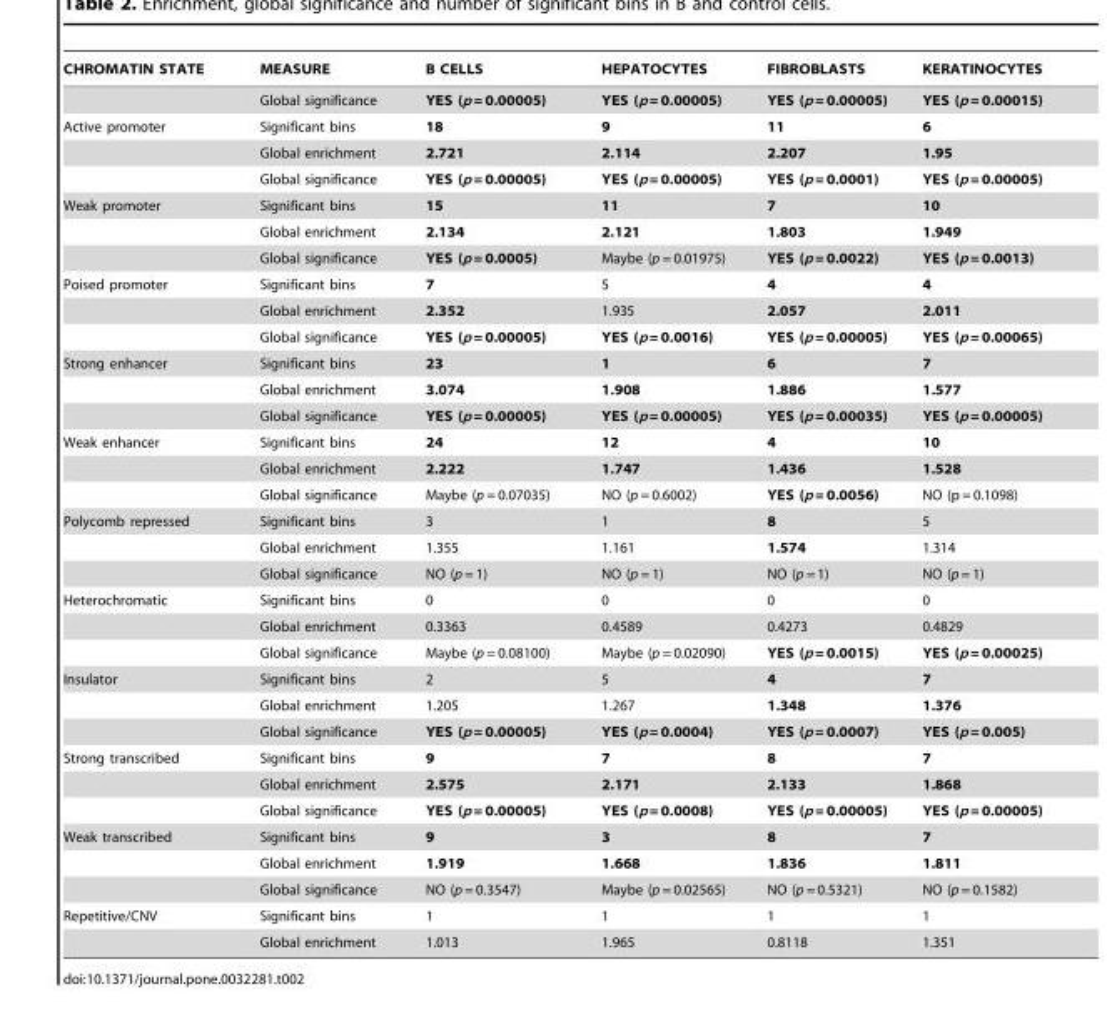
<table><thead><tr><td>CHROMATIN STATE</td><td>MEASURE</td><td>B CELLS</td><td>HEPATOCYTES</td><td>FIBROBLASTS</td><td>KERATINOCYTES</td></tr></thead><tbody><tr><td></td><td>Global significance</td><td>YES (p = 0.00005)</td><td>YES (p = 0.00005)</td><td>YES (p = 0.00005)</td><td>YES (p = 0.00015)</td></tr><tr><td rowspan="3">Active promoter</td><td>Significant bins</td><td>18</td><td>9</td><td>11</td><td>6</td></tr><tr><td>Global enrichment</td><td>2.721</td><td>2.114</td><td>2.207</td><td>1.95</td></tr><tr><td>Global significance</td><td>YES (p = 0.00005)</td><td>YES (p = 0.00005)</td><td>YES (p = 0.0001)</td><td>YES (p = 0.00005)</td></tr><tr><td rowspan="3">Weak promoter</td><td>Significant bins</td><td>15</td><td>11</td><td>7</td><td>10</td></tr><tr><td>Global enrichment</td><td>2.134</td><td>2.121</td><td>1.803</td><td>1.949</td></tr><tr><td>Global significance</td><td>YES (p = 0.0005)</td><td>Maybe (p = 0.01975)</td><td>YES (p = 0.0022)</td><td>YES (p = 0.0013)</td></tr><tr><td rowspan="3">Poised promoter</td><td>Significant bins</td><td>7</td><td>5</td><td>4</td><td>4</td></tr><tr><td>Global enrichment</td><td>2.352</td><td>1.935</td><td>2.057</td><td>2.011</td></tr><tr><td>Global significance</td><td>YES (p = 0.00005)</td><td>YES (p = 0.0016)</td><td>YES (p = 0.00005)</td><td>YES (p = 0.00065)</td></tr><tr><td rowspan="3">Strong enhancer</td><td>Significant bins</td><td>23</td><td>1</td><td>6</td><td>7</td></tr><tr><td>Global enrichment</td><td>3.074</td><td>1.908</td><td>1.886</td><td>1.577</td></tr><tr><td>Global significance</td><td>YES (p = 0.00005)</td><td>YES (p = 0.00005)</td><td>YES (p = 0.00035)</td><td>YES (p = 0.00005)</td></tr><tr><td rowspan="3">Weak enhancer</td><td>Significant bins</td><td>24</td><td>12</td><td>4</td><td>10</td></tr><tr><td>Global enrichment</td><td>2.222</td><td>1.747</td><td>1.436</td><td>1.528</td></tr><tr><td>Global significance</td><td>Maybe (p = 0.07035)</td><td>NO (p = 0.6002)</td><td>YES (p = 0.0056)</td><td>NO (p = 0.1098)</td></tr><tr><td rowspan="3">Polycomb repressed</td><td>Significant bins</td><td>3</td><td>1</td><td>8</td><td>5</td></tr><tr><td>Global enrichment</td><td>1.355</td><td>1.161</td><td>1.574</td><td>1.314</td></tr><tr><td>Global significance</td><td>NO (p = 1)</td><td>NO (p = 1)</td><td>NO (p = 1)</td><td>NO (p = 1)</td></tr><tr><td rowspan="3">Heterochromatic</td><td>Significant bins</td><td>0</td><td>0</td><td>0</td><td>0</td></tr><tr><td>Global enrichment</td><td>0.3363</td><td>0.4589</td><td>0.4273</td><td>0.4829</td></tr><tr><td>Global significance</td><td>Maybe (p = 0.08100)</td><td>Maybe (p = 0.02090)</td><td>YES (p = 0.0015)</td><td>YES (p = 0.00025)</td></tr><tr><td rowspan="3">Insulator</td><td>Significant bins</td><td>2</td><td>5</td><td>4</td><td>7</td></tr><tr><td>Global enrichment</td><td>1.205</td><td>1.267</td><td>1.348</td><td>1.376</td></tr><tr><td>Global significance</td><td>YES (p = 0.00005)</td><td>YES (p = 0.0004)</td><td>YES (p = 0.0007)</td><td>YES (p = 0.005)</td></tr><tr><td rowspan="3">Strong transcribed</td><td>Significant bins</td><td>9</td><td>7</td><td>8</td><td>7</td></tr><tr><td>Global enrichment</td><td>2.575</td><td>2.171</td><td>2.133</td><td>1.868</td></tr><tr><td>Global significance</td><td>YES (p = 0.00005)</td><td>YES (p = 0.0008)</td><td>YES (p = 0.00005)</td><td>YES (p = 0.00005)</td></tr><tr><td rowspan="3">Weak transcribed</td><td>Significant bins</td><td>9</td><td>3</td><td>8</td><td>7</td></tr><tr><td>Global enrichment</td><td>1.919</td><td>1.668</td><td>1.836</td><td>1.811</td></tr><tr><td>Global significance</td><td>NO (p = 0.3547)</td><td>Maybe (p = 0.02565)</td><td>NO (p = 0.5321)</td><td>NO (p = 0.1582)</td></tr><tr><td rowspan="2">Repetitive/CNV</td><td>Significant bins</td><td>1</td><td>1</td><td>1</td><td>1</td></tr><tr><td>Global enrichment</td><td>1.013</td><td>1.965</td><td>0.8118</td><td>1.351</td></tr></tbody></table>